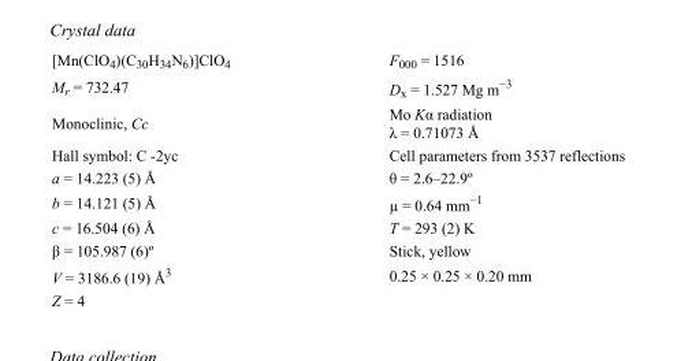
<table><tbody><tr><td>[Mn(ClO<sub>4</sub>)(C<sub>30</sub>H<sub>34</sub>N<sub>6</sub>)]ClO<sub>4</sub></td><td>F<sub>000</sub> = 1516</td></tr><tr><td>M<sub>r</sub> = 732.47</td><td>D<sub>x</sub> = 1.527 Mg m<sup>−3</sup></td></tr><tr><td>Monoclinic, Cc</td><td>Mo Kα radiation λ = 0.71073 Å</td></tr><tr><td>Hall symbol: C -2yc</td><td>Cell parameters from 3537 reflections</td></tr><tr><td>a = 14.223 (5) Å</td><td>θ = 2.6–22.9º</td></tr><tr><td>b = 14.121 (5) Å</td><td>µ = 0.64 mm<sup>−1</sup></td></tr><tr><td>c = 16.504 (6) Å</td><td>T = 293 (2) K</td></tr><tr><td>β = 105.987 (6)º</td><td>Stick, yellow</td></tr><tr><td>V = 3186.6 (19) Å<sup>3</sup></td><td>0.25 × 0.25 × 0.20 mm</td></tr><tr><td>Z = 4</td><td></td></tr></tbody></table>